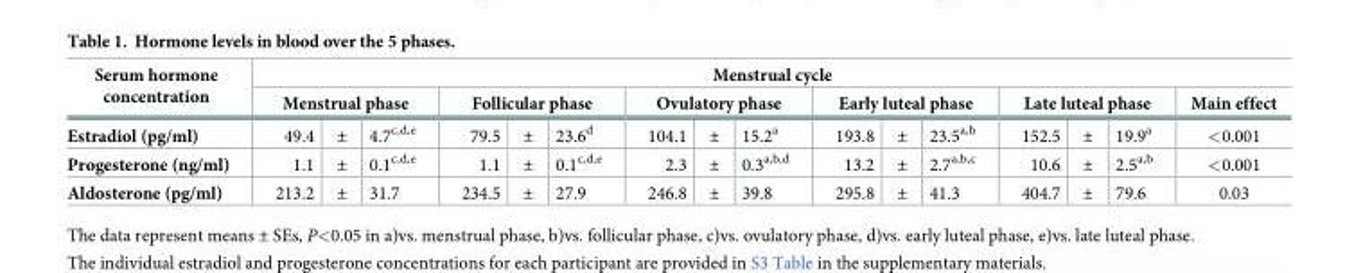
<table><thead><tr><td rowspan="3">Serum hormone concentration Estradiol (pg/ml)</td><td colspan="16">Menstrual cycle</td></tr><tr><td colspan="3">Menstrual phase</td><td colspan="3">Follicular phase</td><td colspan="3">Ovulatory phase</td><td colspan="3">Early luteal phase</td><td colspan="3">Late luteal phase</td><td rowspan="2">Main effect &lt;0.001</td></tr><tr><td>49.4</td><td>±</td><td>4.7<sup>c,d,e</sup></td><td>79.5</td><td>±</td><td>23.6<sup>d</sup></td><td>104.1</td><td>±</td><td>15.2<sup>a</sup></td><td>193.8</td><td>±</td><td>23.5<sup>a,b</sup></td><td>152.5</td><td>±</td><td>19.9<sup>a</sup></td></tr></thead><tbody><tr><td>Progesterone (ng/ml)</td><td>1.1</td><td>±</td><td>0.1<sup>c,d,e</sup></td><td>1.1</td><td>±</td><td>0.1<sup>c,d,e</sup></td><td>2.3</td><td>±</td><td>0.3<sup>a,b,d</sup></td><td>13.2</td><td>±</td><td>2.7<sup>a,b,c</sup></td><td>10.6</td><td>±</td><td>2.5<sup>a,b</sup></td><td>&lt;0.001</td></tr><tr><td>Aldosterone (pg/ml)</td><td>213.2</td><td>±</td><td>31.7</td><td>234.5</td><td>±</td><td>27.9</td><td>246.8</td><td>±</td><td>39.8</td><td>295.8</td><td>±</td><td>41.3</td><td>404.7</td><td>±</td><td>79.6</td><td>0.03</td></tr></tbody></table>